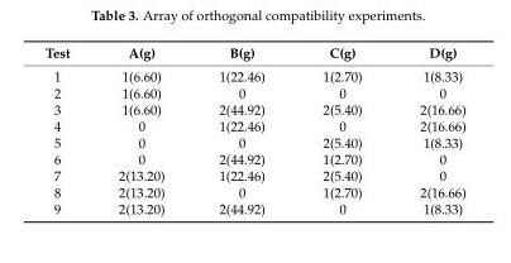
<table><thead><tr><td>Test</td><td>A(g)</td><td>B(g)</td><td>C(g)</td><td>D(g)</td></tr></thead><tbody><tr><td>1</td><td>1(6.60)</td><td>1(22.46)</td><td>1(2.70)</td><td>1(8.33)</td></tr><tr><td>2</td><td>1(6.60)</td><td>0</td><td>0</td><td>0</td></tr><tr><td>3</td><td>1(6.60)</td><td>2(44.92)</td><td>2(5.40)</td><td>2(16.66)</td></tr><tr><td>4</td><td>0</td><td>1(22.46)</td><td>0</td><td>2(16.66)</td></tr><tr><td>5</td><td>0</td><td>0</td><td>2(5.40)</td><td>1(8.33)</td></tr><tr><td>6</td><td>0</td><td>2(44.92)</td><td>1(2.70)</td><td>0</td></tr><tr><td>7</td><td>2(13.20)</td><td>1(22.46)</td><td>2(5.40)</td><td>0</td></tr><tr><td>8</td><td>2(13.20)</td><td>0</td><td>1(2.70)</td><td>2(16.66)</td></tr><tr><td>9</td><td>2(13.20)</td><td>2(44.92)</td><td>0</td><td>1(8.33)</td></tr></tbody></table>